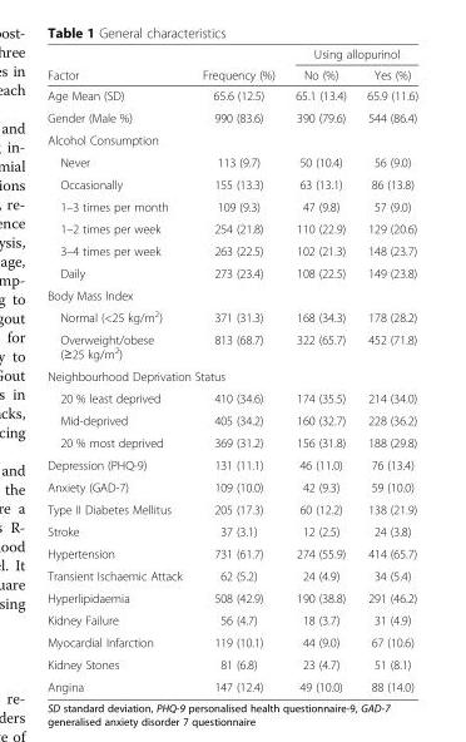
<table><thead><tr><td rowspan="2">Factor</td><td rowspan="2">Frequency (%)</td><td colspan="2">Using allopurinol</td></tr><tr><td>No (%)</td><td>Yes (%)</td></tr></thead><tbody><tr><td>Age Mean (SD)</td><td>65.6 (12.5)</td><td>65.1 (13.4)</td><td>65.9 (11.6)</td></tr><tr><td>Gender (Male %)</td><td>990 (83.6)</td><td>390 (79.6)</td><td>544 (86.4)</td></tr><tr><td colspan="4">Alcohol Consumption</td></tr><tr><td>Never</td><td>113 (9.7)</td><td>50 (10.4)</td><td>56 (9.0)</td></tr><tr><td>Occasionally</td><td>155 (13.3)</td><td>63 (13.1)</td><td>86 (13.8)</td></tr><tr><td>1–3 times per month</td><td>109 (9.3)</td><td>47 (9.8)</td><td>57 (9.0)</td></tr><tr><td>1–2 times per week</td><td>254 (21.8)</td><td>110 (22.9)</td><td>129 (20.6)</td></tr><tr><td>3–4 times per week</td><td>263 (22.5)</td><td>102 (21.3)</td><td>148 (23.7)</td></tr><tr><td>Daily</td><td>273 (23.4)</td><td>108 (22.5)</td><td>149 (23.8)</td></tr><tr><td colspan="4">Body Mass Index</td></tr><tr><td>Normal (&lt;25 kg/m<sup>2</sup>)</td><td>371 (31.3)</td><td>168 (34.3)</td><td>178 (28.2)</td></tr><tr><td>Overweight/obese (≥25 kg/m<sup>2</sup>)</td><td>813 (68.7)</td><td>322 (65.7)</td><td>452 (71.8)</td></tr><tr><td colspan="4">Neighbourhood Deprivation Status</td></tr><tr><td>20 % least deprived</td><td>410 (34.6)</td><td>174 (35.5)</td><td>214 (34.0)</td></tr><tr><td>Mid-deprived</td><td>405 (34.2)</td><td>160 (32.7)</td><td>228 (36.2)</td></tr><tr><td>20 % most deprived</td><td>369 (31.2)</td><td>156 (31.8)</td><td>188 (29.8)</td></tr><tr><td>Depression (PHQ-9)</td><td>131 (11.1)</td><td>46 (11.0)</td><td>76 (13.4)</td></tr><tr><td>Anxiety (GAD-7)</td><td>109 (10.0)</td><td>42 (9.3)</td><td>59 (10.0)</td></tr><tr><td>Type II Diabetes Mellitus</td><td>205 (17.3)</td><td>60 (12.2)</td><td>138 (21.9)</td></tr><tr><td>Stroke</td><td>37 (3.1)</td><td>12 (2.5)</td><td>24 (3.8)</td></tr><tr><td>Hypertension</td><td>731 (61.7)</td><td>274 (55.9)</td><td>414 (65.7)</td></tr><tr><td>Transient Ischaemic Attack</td><td>62 (5.2)</td><td>24 (4.9)</td><td>34 (5.4)</td></tr><tr><td>Hyperlipidaemia</td><td>508 (42.9)</td><td>190 (38.8)</td><td>291 (46.2)</td></tr><tr><td>Kidney Failure</td><td>56 (4.7)</td><td>18 (3.7)</td><td>31 (4.9)</td></tr><tr><td>Myocardial Infarction</td><td>119 (10.1)</td><td>44 (9.0)</td><td>67 (10.6)</td></tr><tr><td>Kidney Stones</td><td>81 (6.8)</td><td>23 (4.7)</td><td>51 (8.1)</td></tr><tr><td>Angina</td><td>147 (12.4)</td><td>49 (10.0)</td><td>88 (14.0)</td></tr></tbody></table>